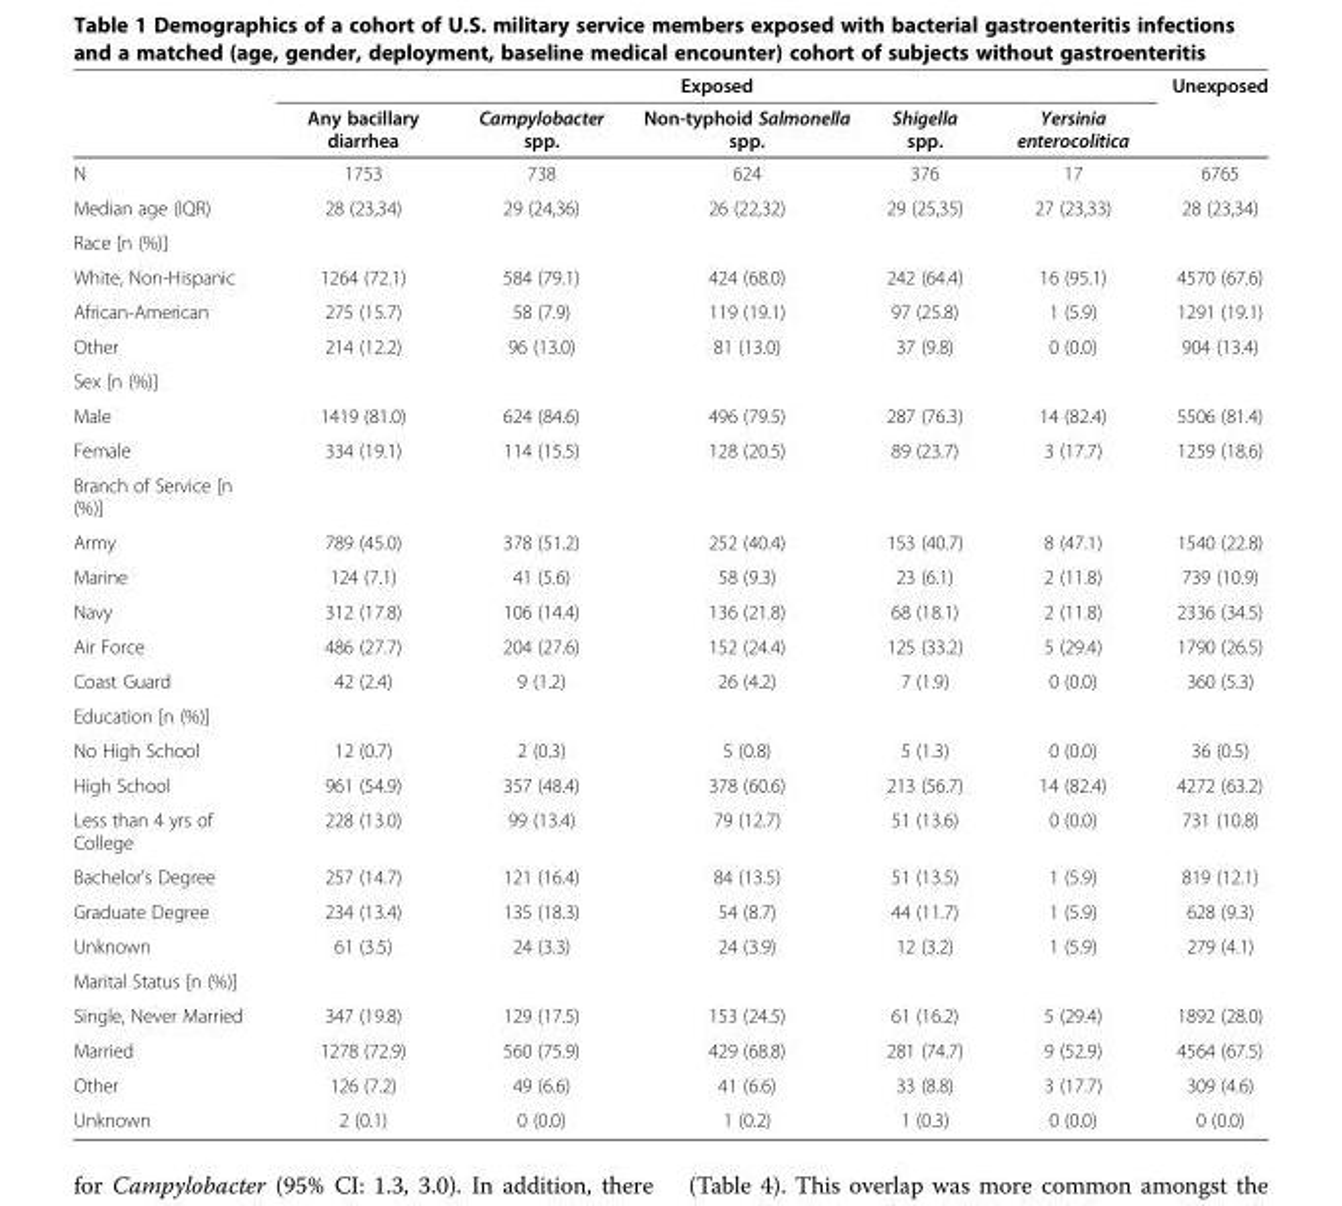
<table><thead><tr><td rowspan="2"></td><td colspan="5">Exposed</td><td rowspan="2">Unexposed</td></tr><tr><td>Any bacillary diarrhea</td><td>Campylobacter spp.</td><td>Non-typhoid Salmonella spp.</td><td>Shigella spp.</td><td>Yersinia enterocolitica</td></tr></thead><tbody><tr><td>N</td><td>1753</td><td>738</td><td>624</td><td>376</td><td>17</td><td>6765</td></tr><tr><td>Median age (IQR)</td><td>28 (23,34)</td><td>29 (24,36)</td><td>26 (22,32)</td><td>29 (25,35)</td><td>27 (23,33)</td><td>28 (23,34)</td></tr><tr><td colspan="7">Race [n (%)]</td></tr><tr><td>White, Non-Hispanic</td><td>1264 (72.1)</td><td>584 (79.1)</td><td>424 (68.0)</td><td>242 (64.4)</td><td>16 (95.1)</td><td>4570 (67.6)</td></tr><tr><td>African-American</td><td>275 (15.7)</td><td>58 (7.9)</td><td>119 (19.1)</td><td>97 (25.8)</td><td>1 (5.9)</td><td>1291 (19.1)</td></tr><tr><td>Other</td><td>214 (12.2)</td><td>96 (13.0)</td><td>81 (13.0)</td><td>37 (9.8)</td><td>0 (0.0)</td><td>904 (13.4)</td></tr><tr><td colspan="7">Sex [n (%)]</td></tr><tr><td>Male</td><td>1419 (81.0)</td><td>624 (84.6)</td><td>496 (79.5)</td><td>287 (76.3)</td><td>14 (82.4)</td><td>5506 (81.4)</td></tr><tr><td>Female</td><td>334 (19.1)</td><td>114 (15.5)</td><td>128 (20.5)</td><td>89 (23.7)</td><td>3 (17.7)</td><td>1259 (18.6)</td></tr><tr><td colspan="7">Branch of Service [n (%)]</td></tr><tr><td>Army</td><td>789 (45.0)</td><td>378 (51.2)</td><td>252 (40.4)</td><td>153 (40.7)</td><td>8 (47.1)</td><td>1540 (22.8)</td></tr><tr><td>Marine</td><td>124 (7.1)</td><td>41 (5.6)</td><td>58 (9.3)</td><td>23 (6.1)</td><td>2 (11.8)</td><td>739 (10.9)</td></tr><tr><td>Navy</td><td>312 (17.8)</td><td>106 (14.4)</td><td>136 (21.8)</td><td>68 (18.1)</td><td>2 (11.8)</td><td>2336 (34.5)</td></tr><tr><td>Air Force</td><td>486 (27.7)</td><td>204 (27.6)</td><td>152 (24.4)</td><td>125 (33.2)</td><td>5 (29.4)</td><td>1790 (26.5)</td></tr><tr><td>Coast Guard</td><td>42 (2.4)</td><td>9 (1.2)</td><td>26 (4.2)</td><td>7 (1.9)</td><td>0 (0.0)</td><td>360 (5.3)</td></tr><tr><td colspan="7">Education [n (%)]</td></tr><tr><td>No High School</td><td>12 (0.7)</td><td>2 (0.3)</td><td>5 (0.8)</td><td>5 (1.3)</td><td>0 (0.0)</td><td>36 (0.5)</td></tr><tr><td>High School</td><td>961 (54.9)</td><td>357 (48.4)</td><td>378 (60.6)</td><td>213 (56.7)</td><td>14 (82.4)</td><td>4272 (63.2)</td></tr><tr><td>Less than 4 yrs of College</td><td>228 (13.0)</td><td>99 (13.4)</td><td>79 (12.7)</td><td>51 (13.6)</td><td>0 (0.0)</td><td>731 (10.8)</td></tr><tr><td>Bachelor’s Degree</td><td>257 (14.7)</td><td>121 (16.4)</td><td>84 (13.5)</td><td>51 (13.5)</td><td>1 (5.9)</td><td>819 (12.1)</td></tr><tr><td>Graduate Degree</td><td>234 (13.4)</td><td>135 (18.3)</td><td>54 (8.7)</td><td>44 (11.7)</td><td>1 (5.9)</td><td>628 (9.3)</td></tr><tr><td>Unknown</td><td>61 (3.5)</td><td>24 (3.3)</td><td>24 (3.9)</td><td>12 (3.2)</td><td>1 (5.9)</td><td>279 (4.1)</td></tr><tr><td colspan="7">Marital Status [n (%)]</td></tr><tr><td>Single, Never Married</td><td>347 (19.8)</td><td>129 (17.5)</td><td>153 (24.5)</td><td>61 (16.2)</td><td>5 (29.4)</td><td>1892 (28.0)</td></tr><tr><td>Married</td><td>1278 (72.9)</td><td>560 (75.9)</td><td>429 (68.8)</td><td>281 (74.7)</td><td>9 (52.9)</td><td>4564 (67.5)</td></tr><tr><td>Other</td><td>126 (7.2)</td><td>49 (6.6)</td><td>41 (6.6)</td><td>33 (8.8)</td><td>3 (17.7)</td><td>309 (4.6)</td></tr><tr><td>Unknown</td><td>2 (0.1)</td><td>0 (0.0)</td><td>1 (0.2)</td><td>1 (0.3)</td><td>0 (0.0)</td><td>0 (0.0)</td></tr></tbody></table>